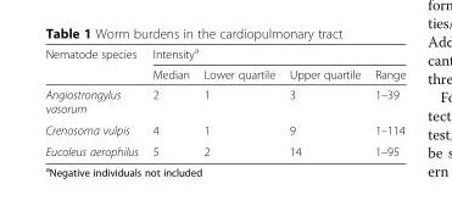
<table><thead><tr><td rowspan="2">Nematode species</td><td colspan="4">Intensity<sup>a</sup></td></tr><tr><td>Median</td><td>Lower quartile</td><td>Upper quartile</td><td>Range</td></tr></thead><tbody><tr><td>Angiostrongylus vasorum</td><td>2</td><td>1</td><td>3</td><td>1–39</td></tr><tr><td>Crenosoma vulpis</td><td>4</td><td>1</td><td>9</td><td>1–114</td></tr><tr><td>Eucoleus aerophilus</td><td>5</td><td>2</td><td>14</td><td>1–95</td></tr></tbody></table>